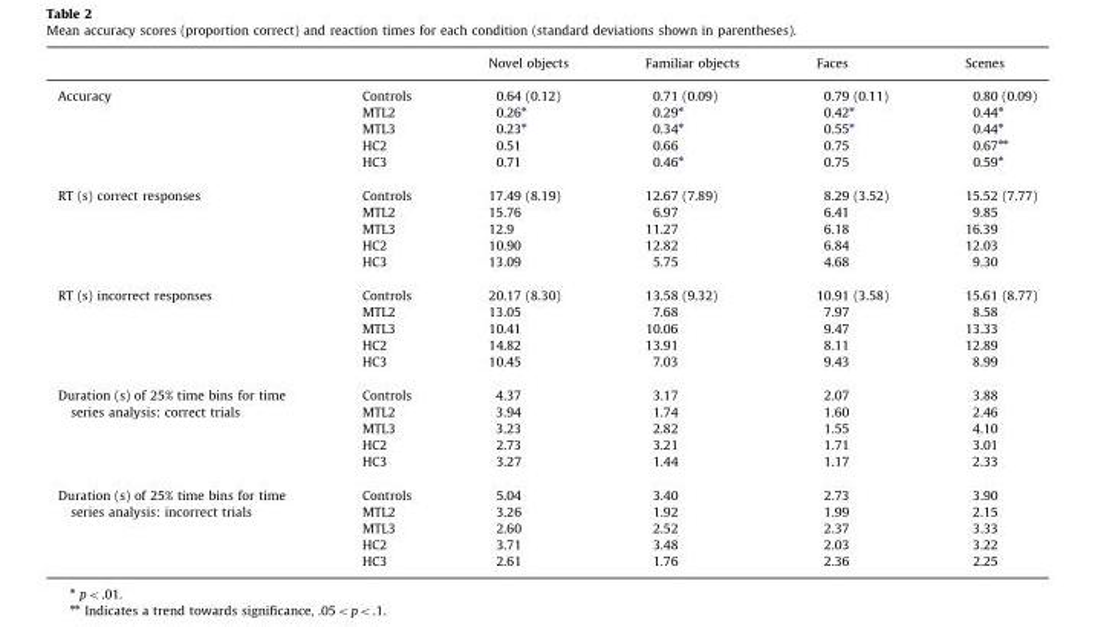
<table><thead><tr><td></td><td></td><td>Novel objects</td><td>Familiar objects</td><td>Faces</td><td>Scenes</td></tr></thead><tbody><tr><td rowspan="5">Accuracy</td><td>Controls</td><td>0.64 (0.12)</td><td>0.71 (0.09)</td><td>0.79 (0.11)</td><td>0.80 (0.09)</td></tr><tr><td>MTL2</td><td>0.26⁎</td><td>0.29⁎</td><td>0.42⁎</td><td>0.44⁎</td></tr><tr><td>MTL3</td><td>0.23⁎</td><td>0.34⁎</td><td>0.55⁎</td><td>0.44⁎</td></tr><tr><td>HC2</td><td>0.51</td><td>0.66</td><td>0.75</td><td>0.67⁎⁎</td></tr><tr><td>HC3</td><td>0.71</td><td>0.46⁎</td><td>0.75</td><td>0.59⁎</td></tr><tr><td rowspan="5">RT (s) correct responses</td><td>Controls</td><td>17.49 (8.19)</td><td>12.67 (7.89)</td><td>8.29 (3.52)</td><td>15.52 (7.77)</td></tr><tr><td>MTL2</td><td>15.76</td><td>6.97</td><td>6.41</td><td>9.85</td></tr><tr><td>MTL3</td><td>12.9</td><td>11.27</td><td>6.18</td><td>16.39</td></tr><tr><td>HC2</td><td>10.90</td><td>12.82</td><td>6.84</td><td>12.03</td></tr><tr><td>HC3</td><td>13.09</td><td>5.75</td><td>4.68</td><td>9.30</td></tr><tr><td rowspan="5">RT (s) incorrect responses</td><td>Controls</td><td>20.17 (8.30)</td><td>13.58 (9.32)</td><td>10.91 (3.58)</td><td>15.61 (8.77)</td></tr><tr><td>MTL2</td><td>13.05</td><td>7.68</td><td>7.97</td><td>8.58</td></tr><tr><td>MTL3</td><td>10.41</td><td>10.06</td><td>9.47</td><td>13.33</td></tr><tr><td>HC2</td><td>14.82</td><td>13.91</td><td>8.11</td><td>12.89</td></tr><tr><td>HC3</td><td>10.45</td><td>7.03</td><td>9.43</td><td>8.99</td></tr><tr><td rowspan="5">Duration (s) of 25% time bins for time series analysis: correct trials</td><td>Controls</td><td>4.37</td><td>3.17</td><td>2.07</td><td>3.88</td></tr><tr><td>MTL2</td><td>3.94</td><td>1.74</td><td>1.60</td><td>2.46</td></tr><tr><td>MTL3</td><td>3.23</td><td>2.82</td><td>1.55</td><td>4.10</td></tr><tr><td>HC2</td><td>2.73</td><td>3.21</td><td>1.71</td><td>3.01</td></tr><tr><td>HC3</td><td>3.27</td><td>1.44</td><td>1.17</td><td>2.33</td></tr><tr><td rowspan="5">Duration (s) of 25% time bins for time series analysis: incorrect trials</td><td>Controls</td><td>5.04</td><td>3.40</td><td>2.73</td><td>3.90</td></tr><tr><td>MTL2</td><td>3.26</td><td>1.92</td><td>1.99</td><td>2.15</td></tr><tr><td>MTL3</td><td>2.60</td><td>2.52</td><td>2.37</td><td>3.33</td></tr><tr><td>HC2</td><td>3.71</td><td>3.48</td><td>2.03</td><td>3.22</td></tr><tr><td>HC3</td><td>2.61</td><td>1.76</td><td>2.36</td><td>2.25</td></tr></tbody></table>